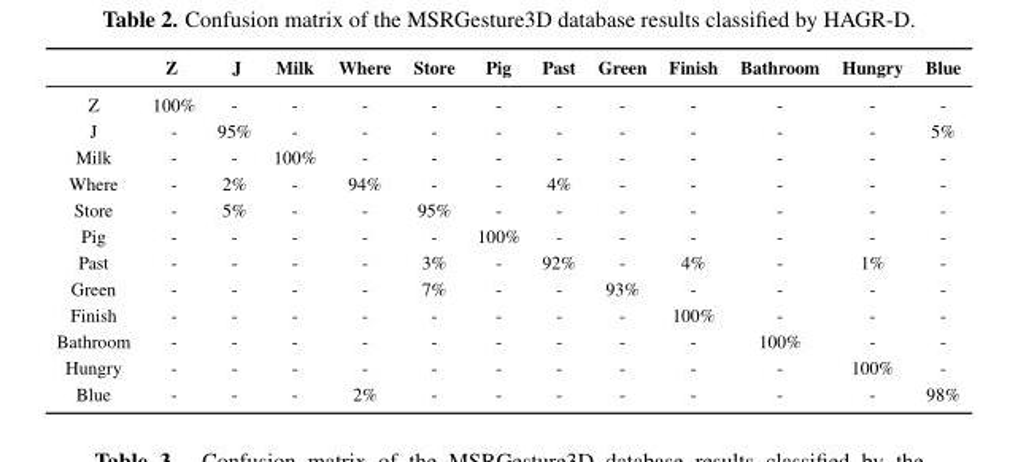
<table><thead><tr><td></td><td>Z</td><td>J</td><td>Milk</td><td>Where</td><td>Store</td><td>Pig</td><td>Past</td><td>Green</td><td>Finish</td><td>Bathroom</td><td>Hungry</td><td>Blue</td></tr></thead><tbody><tr><td>Z</td><td>100%</td><td>-</td><td>-</td><td>-</td><td>-</td><td>-</td><td>-</td><td>-</td><td>-</td><td>-</td><td>-</td><td>-</td></tr><tr><td>J</td><td>-</td><td>95%</td><td>-</td><td>-</td><td>-</td><td>-</td><td>-</td><td>-</td><td>-</td><td>-</td><td>-</td><td>5%</td></tr><tr><td>Milk</td><td>-</td><td>-</td><td>100%</td><td>-</td><td>-</td><td>-</td><td>-</td><td>-</td><td>-</td><td>-</td><td>-</td><td>-</td></tr><tr><td>Where</td><td>-</td><td>2%</td><td>-</td><td>94%</td><td>-</td><td>-</td><td>4%</td><td>-</td><td>-</td><td>-</td><td>-</td><td>-</td></tr><tr><td>Store</td><td>-</td><td>5%</td><td>-</td><td>-</td><td>95%</td><td>-</td><td>-</td><td>-</td><td>-</td><td>-</td><td>-</td><td>-</td></tr><tr><td>Pig</td><td>-</td><td>-</td><td>-</td><td>-</td><td>-</td><td>100%</td><td>-</td><td>-</td><td>-</td><td>-</td><td>-</td><td>-</td></tr><tr><td>Past</td><td>-</td><td>-</td><td>-</td><td>-</td><td>3%</td><td>-</td><td>92%</td><td>-</td><td>4%</td><td>-</td><td>1%</td><td>-</td></tr><tr><td>Green</td><td>-</td><td>-</td><td>-</td><td>-</td><td>7%</td><td>-</td><td>-</td><td>93%</td><td>-</td><td>-</td><td>-</td><td>-</td></tr><tr><td>Finish</td><td>-</td><td>-</td><td>-</td><td>-</td><td>-</td><td>-</td><td>-</td><td>-</td><td>100%</td><td>-</td><td>-</td><td>-</td></tr><tr><td>Bathroom</td><td>-</td><td>-</td><td>-</td><td>-</td><td>-</td><td>-</td><td>-</td><td>-</td><td>-</td><td>100%</td><td>-</td><td>-</td></tr><tr><td>Hungry</td><td>-</td><td>-</td><td>-</td><td>-</td><td>-</td><td>-</td><td>-</td><td>-</td><td>-</td><td>-</td><td>100%</td><td>-</td></tr><tr><td>Blue</td><td>-</td><td>-</td><td>-</td><td>2%</td><td>-</td><td>-</td><td>-</td><td>-</td><td>-</td><td>-</td><td>-</td><td>98%</td></tr></tbody></table>